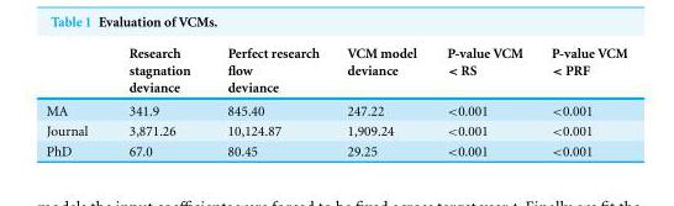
<table><thead><tr><td></td><td>Research stagnation deviance</td><td>Perfect research flow deviance</td><td>VCM model deviance</td><td>P-value VCM &lt; RS</td><td>P-value VCM &lt; PRF</td></tr></thead><tbody><tr><td>MA</td><td>341.9</td><td>845.40</td><td>247.22</td><td>&lt;0.001</td><td>&lt;0.001</td></tr><tr><td>Journal</td><td>3,871.26</td><td>10,124.87</td><td>1,909.24</td><td>&lt;0.001</td><td>&lt;0.001</td></tr><tr><td>PhD</td><td>67.0</td><td>80.45</td><td>29.25</td><td>&lt;0.001</td><td>&lt;0.001</td></tr></tbody></table>